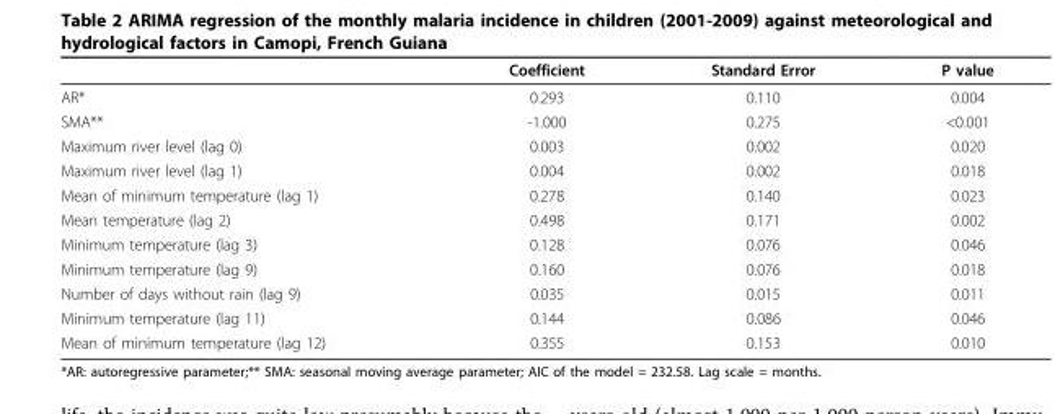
<table><thead><tr><td></td><td>Coefficient</td><td>Standard Error</td><td>P value</td></tr></thead><tbody><tr><td>AR*</td><td>0.293</td><td>0.110</td><td>0.004</td></tr><tr><td>SMA**</td><td>-1.000</td><td>0.275</td><td>&lt;0.001</td></tr><tr><td>Maximum river level (lag 0)</td><td>0.003</td><td>0.002</td><td>0.020</td></tr><tr><td>Maximum river level (lag 1)</td><td>0.004</td><td>0.002</td><td>0.018</td></tr><tr><td>Mean of minimum temperature (lag 1)</td><td>0.278</td><td>0.140</td><td>0.023</td></tr><tr><td>Mean temperature (lag 2)</td><td>0.498</td><td>0.171</td><td>0.002</td></tr><tr><td>Minimum temperature (lag 3)</td><td>0.128</td><td>0.076</td><td>0.046</td></tr><tr><td>Minimum temperature (lag 9)</td><td>0.160</td><td>0.076</td><td>0.018</td></tr><tr><td>Number of days without rain (lag 9)</td><td>0.035</td><td>0.015</td><td>0.011</td></tr><tr><td>Minimum temperature (lag 11)</td><td>0.144</td><td>0.086</td><td>0.046</td></tr><tr><td>Mean of minimum temperature (lag 12)</td><td>0.355</td><td>0.153</td><td>0.010</td></tr></tbody></table>